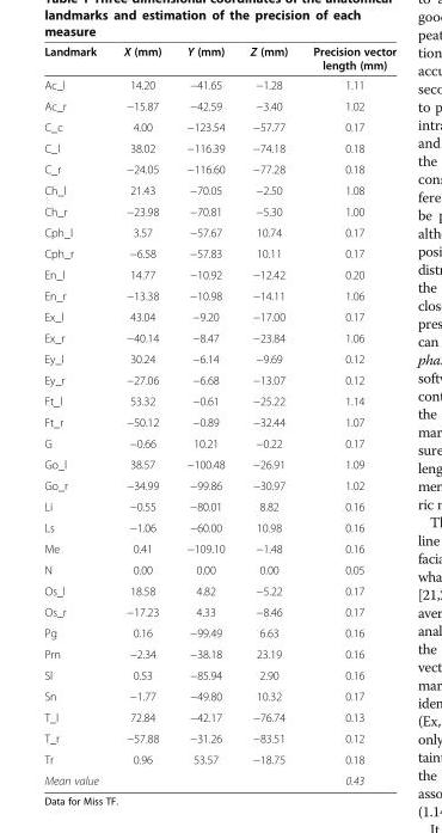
<table><thead><tr><td>Landmark</td><td>X (mm)</td><td>Y (mm)</td><td>Z (mm)</td><td>Precision vector length (mm)</td></tr></thead><tbody><tr><td>Ac_l</td><td>14.20</td><td>−41.65</td><td>−1.28</td><td>1.11</td></tr><tr><td>Ac_r</td><td>−15.87</td><td>−42.59</td><td>−3.40</td><td>1.02</td></tr><tr><td>C_c</td><td>4.00</td><td>−123.54</td><td>−57.77</td><td>0.17</td></tr><tr><td>C_l</td><td>38.02</td><td>−116.39</td><td>−74.18</td><td>0.18</td></tr><tr><td>C_r</td><td>−24.05</td><td>−116.60</td><td>−77.28</td><td>0.18</td></tr><tr><td>Ch_l</td><td>21.43</td><td>−70.05</td><td>−2.50</td><td>1.08</td></tr><tr><td>Ch_r</td><td>−23.98</td><td>−70.81</td><td>−5.30</td><td>1.00</td></tr><tr><td>Cph_l</td><td>3.57</td><td>−57.67</td><td>10.74</td><td>0.17</td></tr><tr><td>Cph_r</td><td>−6.58</td><td>−57.83</td><td>10.11</td><td>0.17</td></tr><tr><td>En_l</td><td>14.77</td><td>−10.92</td><td>−12.42</td><td>0.20</td></tr><tr><td>En_r</td><td>−13.38</td><td>−10.98</td><td>−14.11</td><td>1.06</td></tr><tr><td>Ex_l</td><td>43.04</td><td>−9.20</td><td>−17.00</td><td>0.17</td></tr><tr><td>Ex_r</td><td>−40.14</td><td>−8.47</td><td>−23.84</td><td>1.06</td></tr><tr><td>Ey_l</td><td>30.24</td><td>−6.14</td><td>−9.69</td><td>0.12</td></tr><tr><td>Ey_r</td><td>−27.06</td><td>−6.68</td><td>−13.07</td><td>0.12</td></tr><tr><td>Ft_l</td><td>53.32</td><td>−0.61</td><td>−25.22</td><td>1.14</td></tr><tr><td>Ft_r</td><td>−50.12</td><td>−0.89</td><td>−32.44</td><td>1.07</td></tr><tr><td>G</td><td>−0.66</td><td>10.21</td><td>−0.22</td><td>0.17</td></tr><tr><td>Go_l</td><td>38.57</td><td>−100.48</td><td>−26.91</td><td>1.09</td></tr><tr><td>Go_r</td><td>−34.99</td><td>−99.86</td><td>−30.97</td><td>1.02</td></tr><tr><td>Li</td><td>−0.55</td><td>−80.01</td><td>8.82</td><td>0.16</td></tr><tr><td>Ls</td><td>−1.06</td><td>−60.00</td><td>10.98</td><td>0.16</td></tr><tr><td>Me</td><td>0.41</td><td>−109.10</td><td>−1.48</td><td>0.16</td></tr><tr><td>N</td><td>0.00</td><td>0.00</td><td>0.00</td><td>0.05</td></tr><tr><td>Os_l</td><td>18.58</td><td>4.82</td><td>−5.22</td><td>0.17</td></tr><tr><td>Os_r</td><td>−17.23</td><td>4.33</td><td>−8.46</td><td>0.17</td></tr><tr><td>Pg</td><td>0.16</td><td>−99.49</td><td>6.63</td><td>0.16</td></tr><tr><td>Prn</td><td>−2.34</td><td>−38.18</td><td>23.19</td><td>0.16</td></tr><tr><td>Sl</td><td>0.53</td><td>−85.94</td><td>2.90</td><td>0.16</td></tr><tr><td>Sn</td><td>−1.77</td><td>−49.80</td><td>10.32</td><td>0.17</td></tr><tr><td>T_l</td><td>72.84</td><td>−42.17</td><td>−76.74</td><td>0.13</td></tr><tr><td>T_r</td><td>−57.88</td><td>−31.26</td><td>−83.51</td><td>0.12</td></tr><tr><td>Tr</td><td>0.96</td><td>53.57</td><td>−18.75</td><td>0.18</td></tr><tr><td>Mean value</td><td></td><td></td><td></td><td>0.43</td></tr></tbody></table>